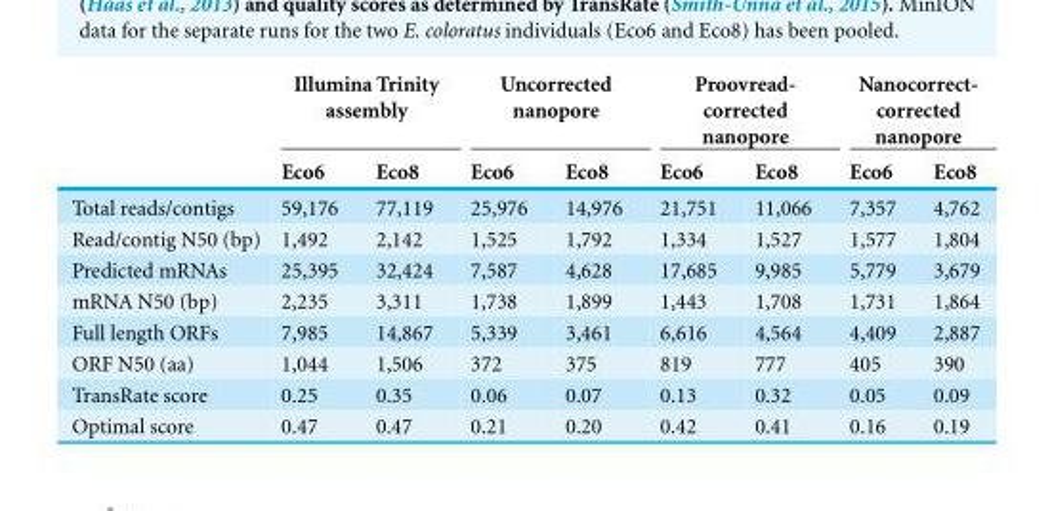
<table><thead><tr><td rowspan="2"></td><td colspan="2">Illumina Trinity assembly</td><td colspan="2">Uncorrected nanopore</td><td colspan="2">Proovread- corrected nanopore</td><td colspan="2">Nanocorrect- corrected nanopore</td></tr><tr><td>Eco6</td><td>Eco8</td><td>Eco6</td><td>Eco8</td><td>Eco6</td><td>Eco8</td><td>Eco6</td><td>Eco8</td></tr></thead><tbody><tr><td>Total reads/contigs</td><td>59,176</td><td>77,119</td><td>25,976</td><td>14,976</td><td>21,751</td><td>11,066</td><td>7,357</td><td>4,762</td></tr><tr><td>Read/contig N50 (bp)</td><td>1,492</td><td>2,142</td><td>1,525</td><td>1,792</td><td>1,334</td><td>1,527</td><td>1,577</td><td>1,804</td></tr><tr><td>Predicted mRNAs</td><td>25,395</td><td>32,424</td><td>7,587</td><td>4,628</td><td>17,685</td><td>9,985</td><td>5,779</td><td>3,679</td></tr><tr><td>mRNA N50 (bp)</td><td>2,235</td><td>3,311</td><td>1,738</td><td>1,899</td><td>1,443</td><td>1,708</td><td>1,731</td><td>1,864</td></tr><tr><td>Full length ORFs</td><td>7,985</td><td>14,867</td><td>5,339</td><td>3,461</td><td>6,616</td><td>4,564</td><td>4,409</td><td>2,887</td></tr><tr><td>ORF N50 (aa)</td><td>1,044</td><td>1,506</td><td>372</td><td>375</td><td>819</td><td>777</td><td>405</td><td>390</td></tr><tr><td>TransRate score</td><td>0.25</td><td>0.35</td><td>0.06</td><td>0.07</td><td>0.13</td><td>0.32</td><td>0.05</td><td>0.09</td></tr><tr><td>Optimal score</td><td>0.47</td><td>0.47</td><td>0.21</td><td>0.20</td><td>0.42</td><td>0.41</td><td>0.16</td><td>0.19</td></tr></tbody></table>